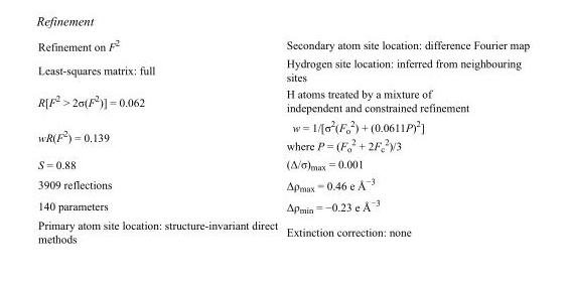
<table><tbody><tr><td>Refinement on F<sup>2</sup></td><td>Secondary atom site location: difference Fourier map</td></tr><tr><td>Least-squares matrix: full</td><td>Hydrogen site location: inferred from neighbouring sites</td></tr><tr><td>R[F<sup>2</sup> &gt; 2σ(F<sup>2</sup>)] = 0.062</td><td>H atoms treated by a mixture of independent and constrained refinement</td></tr><tr><td>wR(F<sup>2</sup>) = 0.139</td><td>w = 1/[σ<sup>2</sup>(F<sub>o</sub> <sup>2</sup>) + (0.0611P)<sup>2</sup>] where P = (F<sub>o</sub> <sup>2</sup> + 2F<sub>c</sub> <sup>2</sup>)/3</td></tr><tr><td>S = 0.88</td><td>(Δ/σ)<sub>max</sub> = 0.001</td></tr><tr><td>3909 reflections</td><td>Δρ<sub>max</sub> = 0.46 e Å<sup>−3</sup></td></tr><tr><td>140 parameters</td><td>Δρ<sub>min</sub> = −0.23 e Å<sup>−3</sup></td></tr><tr><td>Primary atom site location: structure-invariant direct methods</td><td>Extinction correction: none</td></tr></tbody></table>